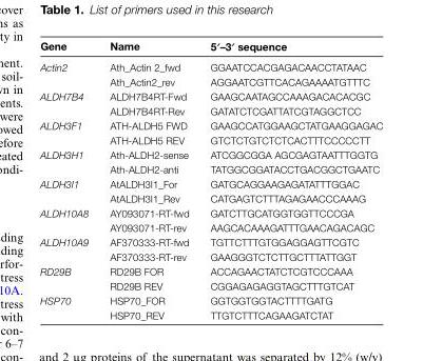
<table><thead><tr><td>Gene</td><td>Name</td><td>5′–3′ sequence</td></tr></thead><tbody><tr><td rowspan="2">Actin2</td><td>Ath_Actin 2_fwd</td><td>GGAATCCACGAGACAACCTATAAC</td></tr><tr><td>Ath_Actin2_rev</td><td>AGGAATCGTTCACAGAAAATGTTTC</td></tr><tr><td rowspan="2">ALDH7B4</td><td>ALDH7B4RT-Fwd</td><td>GAAGCAATAGCCAAAGACACACGC</td></tr><tr><td>ALDH7B4RT-Rev</td><td>GATATCTCGATTATCGTAGGCTCC</td></tr><tr><td rowspan="2">ALDH3F1</td><td>ATH-ALDH5 FWD</td><td>GAAGCCATGGAAGCTATGAAGGAGAC</td></tr><tr><td>ATH-ALDH5 REV</td><td>GTCTCTGTCTCTCACTTTCCCCCTT</td></tr><tr><td rowspan="2">ALDH3H1</td><td>Ath-ALDH2-sense</td><td>ATCGGCGGA AGCGAGTAATTTGGTG</td></tr><tr><td>Ath-ALDH2-anti</td><td>TATGGCGGATACCTGACGGCTGAATC</td></tr><tr><td rowspan="2">ALDH3I1</td><td>AtALDH3I1_For</td><td>GATGCAGGAAGAGATATTTGGAC</td></tr><tr><td>AtALDH3I1_Rev</td><td>CATGAGTCTTTAGAGAACCCAAAG</td></tr><tr><td rowspan="2">ALDH10A8</td><td>AY093071-RT-fwd</td><td>GATCTTGCATGGTGGTTCCCGA</td></tr><tr><td>AY093071-RT-rev</td><td>AAGCACAAAGATTTGAACAGACAGC</td></tr><tr><td rowspan="2">ALDH10A9</td><td>AF370333-RT-fwd</td><td>TGTTCTTTGTGGAGGAGTTCGTC</td></tr><tr><td>AF370333-RT-rev</td><td>GAAGGGTCTCTTGCTTTATTGGT</td></tr><tr><td rowspan="2">RD29B</td><td>RD29B FOR</td><td>ACCAGAACTATCTCGTCCCAAA</td></tr><tr><td>RD29B REV</td><td>CGGAGAGAGGTAGCTTTGTCAT</td></tr><tr><td rowspan="2">HSP70</td><td>HSP70_FOR</td><td>GGTGGTGGTACTTTTGATG</td></tr><tr><td>HSP70_REV</td><td>TTGTCTTTCAGAAGATCTAT</td></tr></tbody></table>